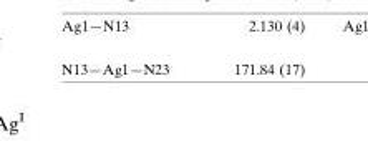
<table><tbody><tr><td>N13—Ag1—N23</td><td>171.84 (17)</td></tr></tbody></table>